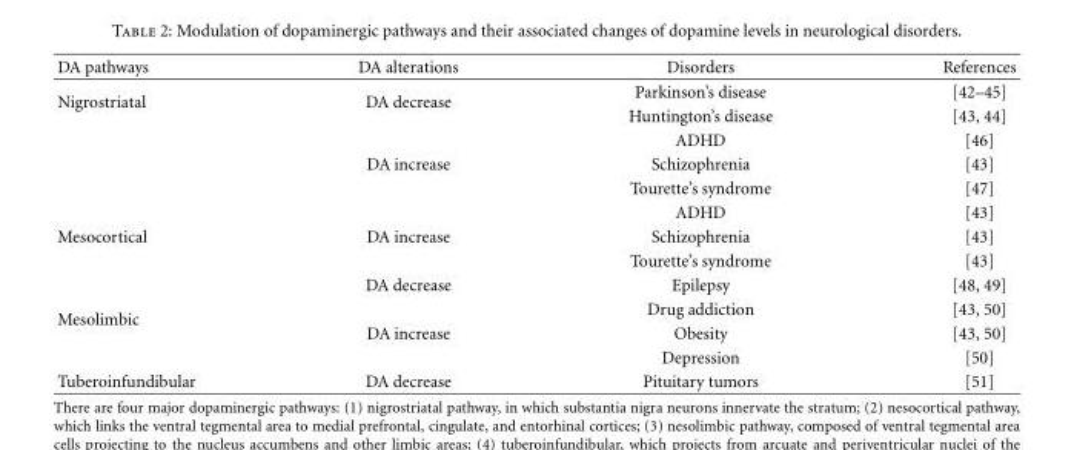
<table><thead><tr><td>DA pathways</td><td>DA alterations</td><td>Disorders</td><td>References</td></tr></thead><tbody><tr><td rowspan="6">Nigrostriatal</td><td rowspan="2">DA decrease</td><td>Parkinson’s disease</td><td>[42–45]</td></tr><tr><td>Huntington’s disease</td><td>[43, 44]</td></tr><tr><td></td><td>ADHD</td><td>[46]</td></tr><tr><td>DA increase</td><td>Schizophrenia</td><td>[43]</td></tr><tr><td></td><td>Tourette’s syndrome</td><td>[47]</td></tr><tr><td></td><td>ADHD</td><td>[43]</td></tr><tr><td rowspan="2">Mesocortical</td><td>DA increase</td><td>Schizophrenia</td><td>[43]</td></tr><tr><td></td><td>Tourette’s syndrome</td><td>[43]</td></tr><tr><td rowspan="4">Mesolimbic</td><td>DA decrease</td><td>Epilepsy</td><td>[48, 49]</td></tr><tr><td></td><td>Drug addiction</td><td>[43, 50]</td></tr><tr><td>DA increase</td><td>Obesity</td><td>[43, 50]</td></tr><tr><td></td><td>Depression</td><td>[50]</td></tr><tr><td>Tuberoinfundibular</td><td>DA decrease</td><td>Pituitary tumors</td><td>[51]</td></tr></tbody></table>